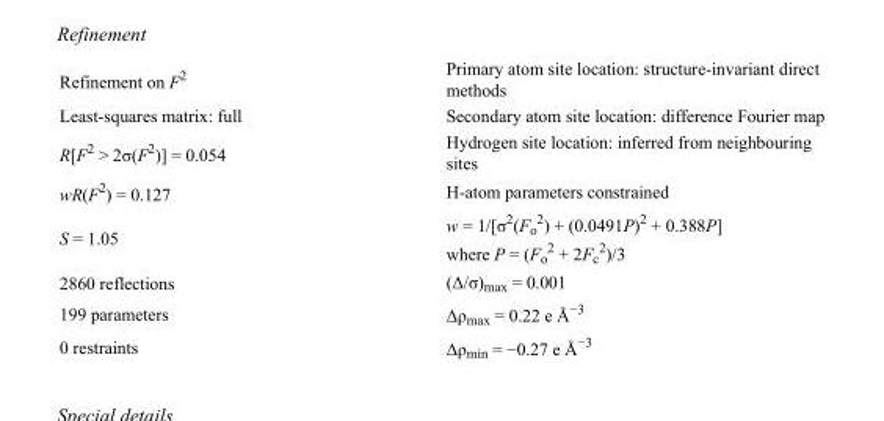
<table><tbody><tr><td>Refinement on F<sup>2</sup></td><td>Primary atom site location: structure-invariant direct methods</td></tr><tr><td>Least-squares matrix: full</td><td>Secondary atom site location: difference Fourier map</td></tr><tr><td>R[F<sup>2</sup> &gt; 2σ(F<sup>2</sup>)] = 0.054</td><td>Hydrogen site location: inferred from neighbouring sites</td></tr><tr><td>wR(F<sup>2</sup>) = 0.127</td><td>H-atom parameters constrained</td></tr><tr><td>S = 1.05</td><td>w = 1/[σ<sup>2</sup>(F<sub>o</sub> <sup>2</sup>) + (0.0491P)<sup>2</sup> + 0.388P] where P = (F<sub>o</sub> <sup>2</sup> + 2F<sub>c</sub> <sup>2</sup>)/3</td></tr><tr><td>2860 reflections</td><td>(Δ/σ)<sub>max</sub> = 0.001</td></tr><tr><td>199 parameters</td><td>Δρ<sub>max</sub> = 0.22 e Å<sup>−3</sup></td></tr><tr><td>0 restraints</td><td>Δρ<sub>min</sub> = −0.27 e Å<sup>−3</sup></td></tr></tbody></table>